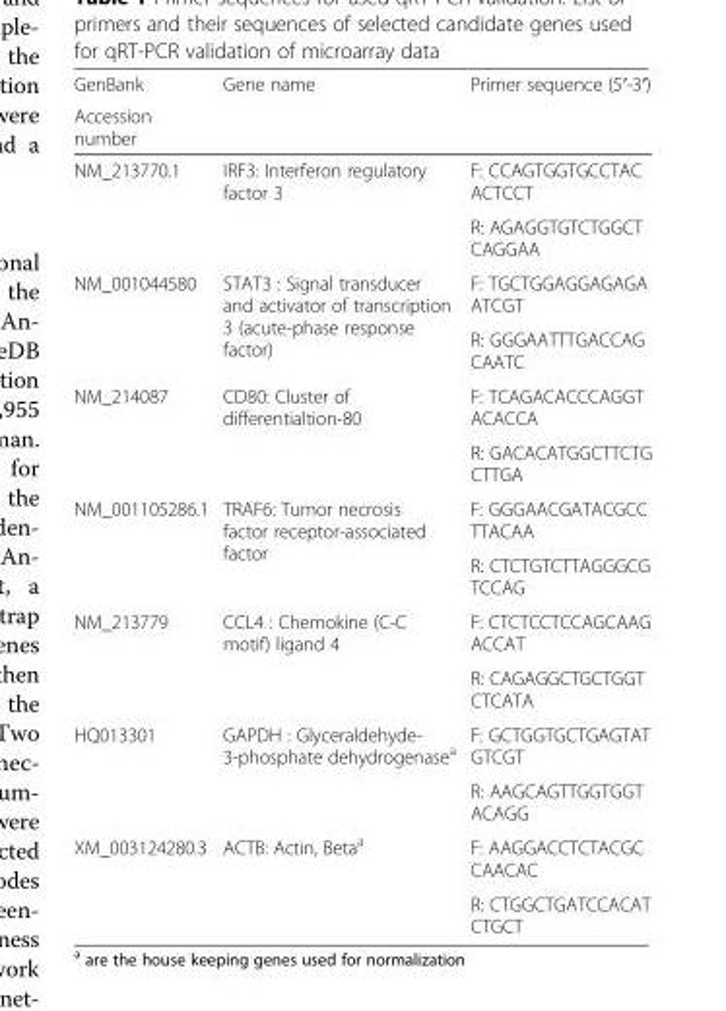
<table><thead><tr><td rowspan="2">GenBank Accession number</td><td rowspan="2">Gene name</td><td rowspan="2">Primer sequence (5′-3′)</td></tr><tr></tr></thead><tbody><tr><td rowspan="2">NM_213770.1</td><td rowspan="2">IRF3: Interferon regulatory factor 3</td><td>F: CCAGTGGTGCCTAC ACTCCT</td></tr><tr><td>R: AGAGGTGTCTGGCT CAGGAA</td></tr><tr><td rowspan="2">NM_001044580</td><td rowspan="2">STAT3 : Signal transducer and activator of transcription 3 (acute-phase response factor)</td><td>F: TGCTGGAGGAGAGA ATCGT</td></tr><tr><td>R: GGGAATTTGACCAG CAATC</td></tr><tr><td rowspan="2">NM_214087</td><td rowspan="2">CD80: Cluster of differentialtion-80</td><td>F: TCAGACACCCAGGT ACACCA</td></tr><tr><td>R: GACACATGGCTTCTG CTTGA</td></tr><tr><td rowspan="2">NM_001105286.1</td><td rowspan="2">TRAF6: Tumor necrosis factor receptor-associated factor</td><td>F: GGGAACGATACGCC TTACAA</td></tr><tr><td>R: CTCTGTCTTAGGGCG TCCAG</td></tr><tr><td rowspan="2">NM_213779</td><td rowspan="2">CCL4 : Chemokine (C-C motif) ligand 4</td><td>F: CTCTCCTCCAGCAAG ACCAT</td></tr><tr><td>R: CAGAGGCTGCTGGT CTCATA</td></tr><tr><td rowspan="2">HQ013301</td><td rowspan="2">GAPDH : Glyceraldehyde- 3-phosphate dehydrogenase<sup>a</sup></td><td>F: GCTGGTGCTGAGTAT GTCGT</td></tr><tr><td>R: AAGCAGTTGGTGGT ACAGG</td></tr><tr><td rowspan="2">XM_003124280.3</td><td rowspan="2">ACTB: Actin, Beta<sup>a</sup></td><td>F: AAGGACCTCTACGC CAACAC</td></tr><tr><td>R: CTGGCTGATCCACAT CTGCT</td></tr></tbody></table>